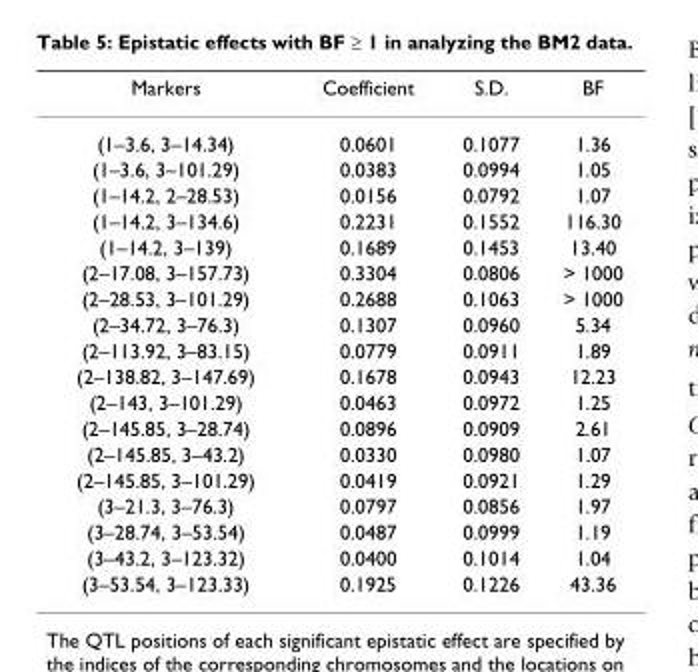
<table><thead><tr><td>Markers</td><td>Coefficient</td><td>S.D.</td><td>BF</td></tr></thead><tbody><tr><td>(1–3.6, 3–14.34)</td><td>0.0601</td><td>0.1077</td><td>1.36</td></tr><tr><td>(1–3.6, 3–101.29)</td><td>0.0383</td><td>0.0994</td><td>1.05</td></tr><tr><td>(1–14.2, 2–28.53)</td><td>0.0156</td><td>0.0792</td><td>1.07</td></tr><tr><td>(1–14.2, 3–134.6)</td><td>0.2231</td><td>0.1552</td><td>116.30</td></tr><tr><td>(1–14.2, 3–139)</td><td>0.1689</td><td>0.1453</td><td>13.40</td></tr><tr><td>(2–17.08, 3–157.73)</td><td>0.3304</td><td>0.0806</td><td>&gt; 1000</td></tr><tr><td>(2–28.53, 3–101.29)</td><td>0.2688</td><td>0.1063</td><td>&gt; 1000</td></tr><tr><td>(2–34.72, 3–76.3)</td><td>0.1307</td><td>0.0960</td><td>5.34</td></tr><tr><td>(2–113.92, 3–83.15)</td><td>0.0779</td><td>0.0911</td><td>1.89</td></tr><tr><td>(2–138.82, 3–147.69)</td><td>0.1678</td><td>0.0943</td><td>12.23</td></tr><tr><td>(2–143, 3–101.29)</td><td>0.0463</td><td>0.0972</td><td>1.25</td></tr><tr><td>(2–145.85, 3–28.74)</td><td>0.0896</td><td>0.0909</td><td>2.61</td></tr><tr><td>(2–145.85, 3–43.2)</td><td>0.0330</td><td>0.0980</td><td>1.07</td></tr><tr><td>(2–145.85, 3–101.29)</td><td>0.0419</td><td>0.0921</td><td>1.29</td></tr><tr><td>(3–21.3, 3–76.3)</td><td>0.0797</td><td>0.0856</td><td>1.97</td></tr><tr><td>(3–28.74, 3–53.54)</td><td>0.0487</td><td>0.0999</td><td>1.19</td></tr><tr><td>(3–43.2, 3–123.32)</td><td>0.0400</td><td>0.1014</td><td>1.04</td></tr><tr><td>(3–53.54, 3–123.33)</td><td>0.1925</td><td>0.1226</td><td>43.36</td></tr></tbody></table>